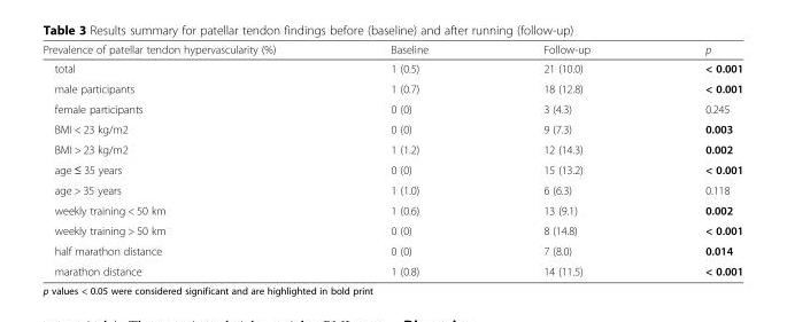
<table><thead><tr><td>Prevalence of patellar tendon hypervascularity (%)</td><td>Baseline</td><td>Follow-up</td><td>p</td></tr></thead><tbody><tr><td>total</td><td>1 (0.5)</td><td>21 (10.0)</td><td>&lt; 0.001</td></tr><tr><td>male participants</td><td>1 (0.7)</td><td>18 (12.8)</td><td>&lt; 0.001</td></tr><tr><td>female participants</td><td>0 (0)</td><td>3 (4.3)</td><td>0.245</td></tr><tr><td>BMI &lt; 23 kg/m2</td><td>0 (0)</td><td>9 (7.3)</td><td>0.003</td></tr><tr><td>BMI &gt; 23 kg/m2</td><td>1 (1.2)</td><td>12 (14.3)</td><td>0.002</td></tr><tr><td>age ≤ 35 years</td><td>0 (0)</td><td>15 (13.2)</td><td>&lt; 0.001</td></tr><tr><td>age &gt; 35 years</td><td>1 (1.0)</td><td>6 (6.3)</td><td>0.118</td></tr><tr><td>weekly training &lt; 50 km</td><td>1 (0.6)</td><td>13 (9.1)</td><td>0.002</td></tr><tr><td>weekly training &gt; 50 km</td><td>0 (0)</td><td>8 (14.8)</td><td>&lt; 0.001</td></tr><tr><td>half marathon distance</td><td>0 (0)</td><td>7 (8.0)</td><td>0.014</td></tr><tr><td>marathon distance</td><td>1 (0.8)</td><td>14 (11.5)</td><td>&lt; 0.001</td></tr></tbody></table>